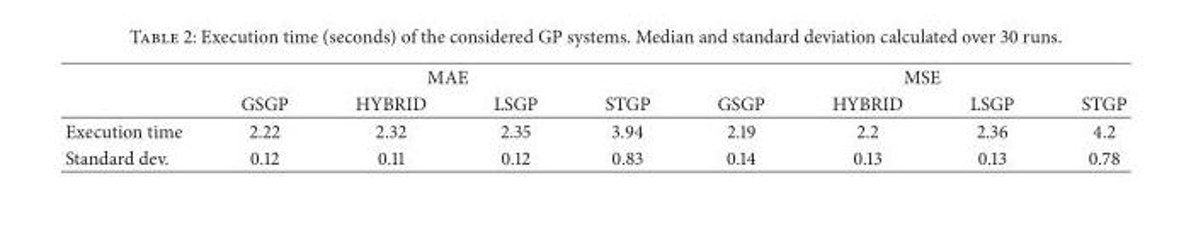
<table><thead><tr><td rowspan="2"></td><td colspan="4">MAE</td><td colspan="4">MSE</td></tr><tr><td>GSGP</td><td>HYBRID</td><td>LSGP</td><td>STGP</td><td>GSGP</td><td>HYBRID</td><td>LSGP</td><td>STGP</td></tr></thead><tbody><tr><td>Execution time</td><td>2.22</td><td>2.32</td><td>2.35</td><td>3.94</td><td>2.19</td><td>2.2</td><td>2.36</td><td>4.2</td></tr><tr><td>Standard dev.</td><td>0.12</td><td>0.11</td><td>0.12</td><td>0.83</td><td>0.14</td><td>0.13</td><td>0.13</td><td>0.78</td></tr></tbody></table>